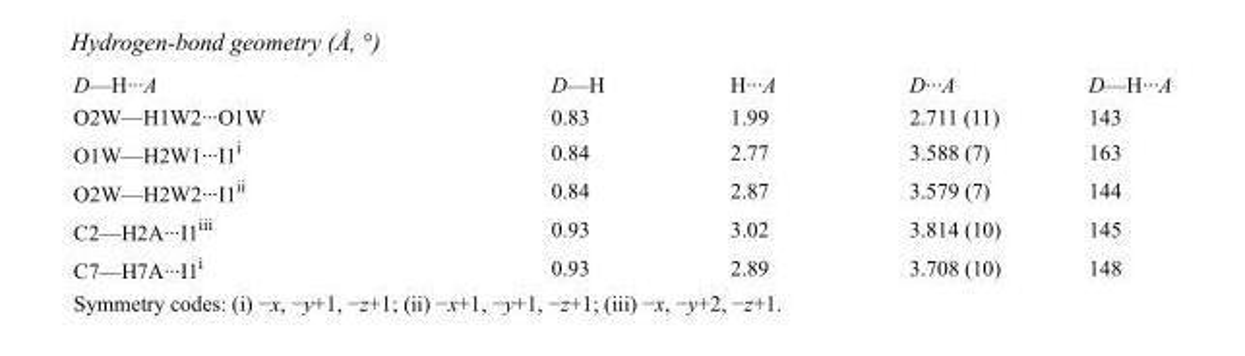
<table><tbody><tr><td>D—H···A</td><td>D—H</td><td>H···A</td><td>D···A</td><td>D—H···A</td></tr><tr><td>O2W—H1W2···O1W</td><td>0.83</td><td>1.99</td><td>2.711 (11)</td><td>143</td></tr><tr><td>O1W—H2W1···I1<sup>i</sup></td><td>0.84</td><td>2.77</td><td>3.588 (7)</td><td>163</td></tr><tr><td>O2W—H2W2···I1<sup>ii</sup></td><td>0.84</td><td>2.87</td><td>3.579 (7)</td><td>144</td></tr><tr><td>C2—H2A···I1<sup>iii</sup></td><td>0.93</td><td>3.02</td><td>3.814 (10)</td><td>145</td></tr><tr><td>C7—H7A···I1<sup>i</sup></td><td>0.93</td><td>2.89</td><td>3.708 (10)</td><td>148</td></tr></tbody></table>